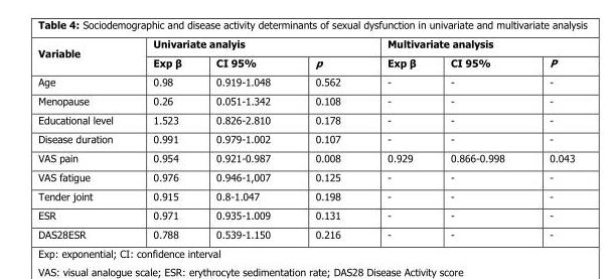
<table><thead><tr><td rowspan="2">Variable</td><td colspan="3">Univariate analyis</td><td colspan="3">Multivariate analysis</td></tr><tr><td>Exp β</td><td>CI 95%</td><td>p</td><td>Exp β</td><td>CI 95%</td><td>P</td></tr></thead><tbody><tr><td>Age</td><td>0.98</td><td>0.919-1.048</td><td>0.562</td><td>-</td><td>-</td><td>-</td></tr><tr><td>Menopause</td><td>0.26</td><td>0.051-1.342</td><td>0.108</td><td>-</td><td>-</td><td>-</td></tr><tr><td>Educational level</td><td>1.523</td><td>0.826-2.810</td><td>0.178</td><td>-</td><td>-</td><td>-</td></tr><tr><td>Disease duration</td><td>0.991</td><td>0.979-1.002</td><td>0.107</td><td>-</td><td>-</td><td>-</td></tr><tr><td>VAS pain</td><td>0.954</td><td>0.921-0.987</td><td>0.008</td><td>0.929</td><td>0.866-0.998</td><td>0.043</td></tr><tr><td>VAS fatigue</td><td>0.976</td><td>0.946-1,007</td><td>0.125</td><td>-</td><td>-</td><td>-</td></tr><tr><td>Tender joint</td><td>0.915</td><td>0.8-1.047</td><td>0.198</td><td>-</td><td>-</td><td>-</td></tr><tr><td>ESR</td><td>0.971</td><td>0.935-1.009</td><td>0.131</td><td>-</td><td>-</td><td>-</td></tr><tr><td>DAS28ESR</td><td>0.788</td><td>0.539-1.150</td><td>0.216</td><td>-</td><td>-</td><td>-</td></tr></tbody></table>